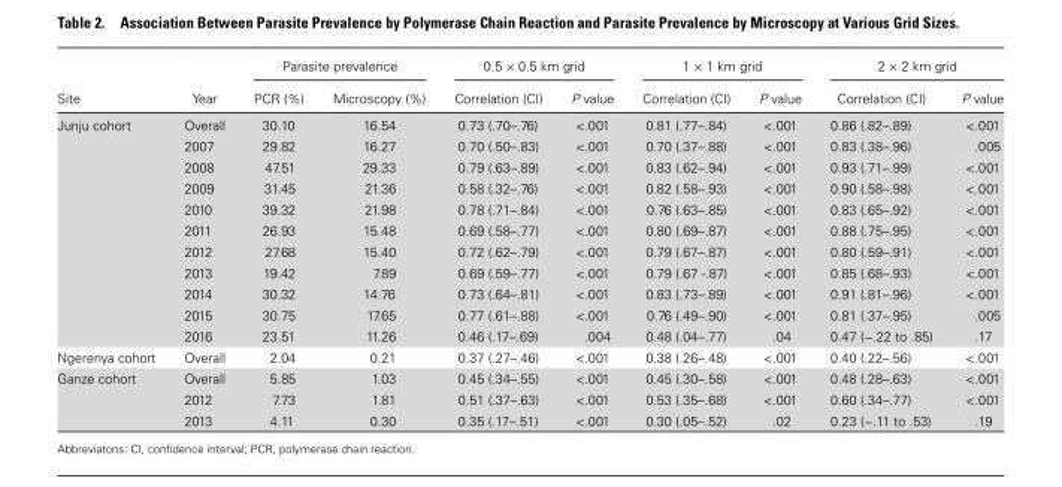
<table><thead><tr><td rowspan="2">Site</td><td rowspan="2">Year</td><td colspan="2">Parasite prevalence</td><td colspan="2">0.5 × 0.5 km grid</td><td colspan="2">1 × 1 km grid</td><td colspan="2">2 × 2 km grid</td></tr><tr><td>PCR (%)</td><td>Microscopy (%)</td><td>Correlation (CI)</td><td>P value</td><td>Correlation (CI)</td><td>P value</td><td>Correlation (CI)</td><td>P value</td></tr></thead><tbody><tr><td rowspan="11">Junju cohort</td><td>Overall</td><td>30.10</td><td>16.54</td><td>0.73 (.70–.76)</td><td>&lt;.001</td><td>0.81 (.77–.84)</td><td>&lt;.001</td><td>0.86 (.82–.89)</td><td>&lt;.001</td></tr><tr><td>2007</td><td>29.82</td><td>16.27</td><td>0.70 (.50–.83)</td><td>&lt;.001</td><td>0.70 (.37–.88)</td><td>&lt;.001</td><td>0.83 (.38–.96)</td><td>.005</td></tr><tr><td>2008</td><td>47.51</td><td>29.33</td><td>0.79 (.63–.89)</td><td>&lt;.001</td><td>0.83 (.62–.94)</td><td>&lt;.001</td><td>0.93 (.71–.99)</td><td>&lt;.001</td></tr><tr><td>2009</td><td>31.45</td><td>21.36</td><td>0.58 (.32–.76)</td><td>&lt;.001</td><td>0.82 (.58–.93)</td><td>&lt;.001</td><td>0.90 (.58–.98)</td><td>&lt;.001</td></tr><tr><td>2010</td><td>39.32</td><td>21.98</td><td>0.78 (.71–.84)</td><td>&lt;.001</td><td>0.76 (.63–.85)</td><td>&lt;.001</td><td>0.83 (.65–.92)</td><td>&lt;.001</td></tr><tr><td>2011</td><td>26.93</td><td>15.48</td><td>0.69 (.58–.77)</td><td>&lt;.001</td><td>0.80 (.69–.87)</td><td>&lt;.001</td><td>0.88 (.75–.95)</td><td>&lt;.001</td></tr><tr><td>2012</td><td>27.68</td><td>15.40</td><td>0.72 (.62–.79)</td><td>&lt;.001</td><td>0.79 (.67–.87)</td><td>&lt;.001</td><td>0.80 (.59–.91)</td><td>&lt;.001</td></tr><tr><td>2013</td><td>19.42</td><td>7.89</td><td>0.69 (.59–.77)</td><td>&lt;.001</td><td>0.79 (.67 -.87)</td><td>&lt;.001</td><td>0.85 (.68–.93)</td><td>&lt;.001</td></tr><tr><td>2014</td><td>30.32</td><td>14.76</td><td>0.73 (.64–.81)</td><td>&lt;.001</td><td>0.83 (.73–.89)</td><td>&lt;.001</td><td>0.91 (.81–.96)</td><td>&lt;.001</td></tr><tr><td>2015</td><td>30.75</td><td>17.65</td><td>0.77 (.61–.88)</td><td>&lt;.001</td><td>0.76 (.49–.90)</td><td>&lt;.001</td><td>0.81 (.37–.95)</td><td>.005</td></tr><tr><td>2016</td><td>23.51</td><td>11.26</td><td>0.46 (.17–.69)</td><td>.004</td><td>0.48 (.04–.77)</td><td>.04</td><td>0.47 (−.22 to .85)</td><td>.17</td></tr><tr><td>Ngerenya cohort</td><td>Overall</td><td>2.04</td><td>0.21</td><td>0.37 (.27–.46)</td><td>&lt;.001</td><td>0.38 (.26–.48)</td><td>&lt;.001</td><td>0.40 (.22–.56)</td><td>&lt;.001</td></tr><tr><td rowspan="3">Ganze cohort</td><td>Overall</td><td>5.85</td><td>1.03</td><td>0.45 (.34–.55)</td><td>&lt;.001</td><td>0.45 (.30–.58)</td><td>&lt;.001</td><td>0.48 (.28–.63)</td><td>&lt;.001</td></tr><tr><td>2012</td><td>7.73</td><td>1.81</td><td>0.51 (.37–.63)</td><td>&lt;.001</td><td>0.53 (.35–.68)</td><td>&lt;.001</td><td>0.60 (.34–.77)</td><td>&lt;.001</td></tr><tr><td>2013</td><td>4.11</td><td>0.30</td><td>0.35 (.17–.51)</td><td>&lt;.001</td><td>0.30 (.05–.52)</td><td>.02</td><td>0.23 (−.11 to .53)</td><td>.19</td></tr></tbody></table>